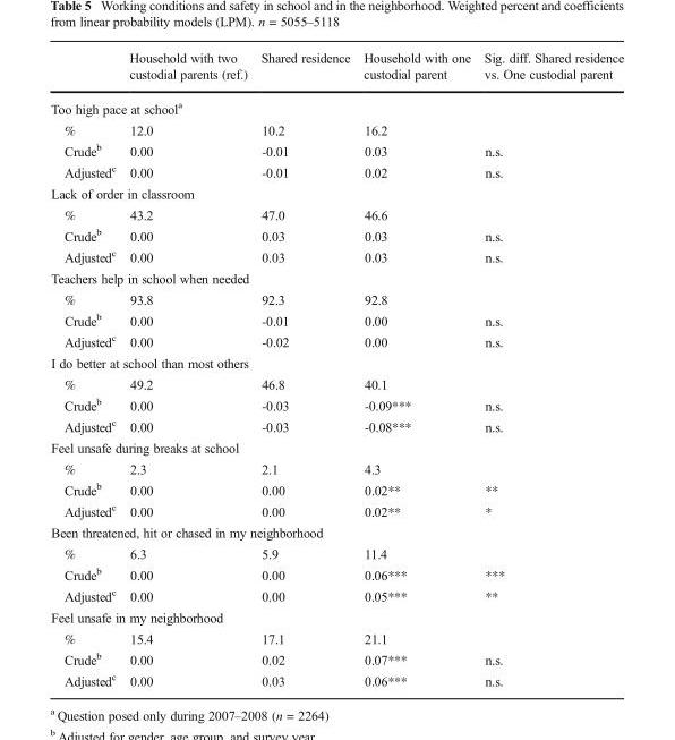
<table><thead><tr><td></td><td>Household with two custodial parents (ref.)</td><td>Shared residence</td><td>Household with one custodial parent</td><td>Sig. diff. Shared residence vs. One custodial parent</td></tr></thead><tbody><tr><td colspan="5">Too high pace at school<sup>a</sup></td></tr><tr><td>%</td><td>12.0</td><td>10.2</td><td>16.2</td><td></td></tr><tr><td>Crude<sup>b</sup></td><td>0.00</td><td>-0.01</td><td>0.03</td><td>n.s.</td></tr><tr><td>Adjusted<sup>c</sup></td><td>0.00</td><td>-0.01</td><td>0.02</td><td>n.s.</td></tr><tr><td colspan="5">Lack of order in classroom</td></tr><tr><td>%</td><td>43.2</td><td>47.0</td><td>46.6</td><td></td></tr><tr><td>Crude<sup>b</sup></td><td>0.00</td><td>0.03</td><td>0.03</td><td>n.s.</td></tr><tr><td>Adjusted<sup>c</sup></td><td>0.00</td><td>0.03</td><td>0.03</td><td>n.s.</td></tr><tr><td colspan="5">Teachers help in school when needed</td></tr><tr><td>%</td><td>93.8</td><td>92.3</td><td>92.8</td><td></td></tr><tr><td>Crude<sup>b</sup></td><td>0.00</td><td>-0.01</td><td>0.00</td><td>n.s.</td></tr><tr><td>Adjusted<sup>c</sup></td><td>0.00</td><td>-0.02</td><td>0.00</td><td>n.s.</td></tr><tr><td colspan="5">I do better at school than most others</td></tr><tr><td>%</td><td>49.2</td><td>46.8</td><td>40.1</td><td></td></tr><tr><td>Crude<sup>b</sup></td><td>0.00</td><td>-0.03</td><td>-0.09***</td><td>n.s.</td></tr><tr><td>Adjusted<sup>c</sup></td><td>0.00</td><td>-0.03</td><td>-0.08***</td><td>n.s.</td></tr><tr><td colspan="5">Feel unsafe during breaks at school</td></tr><tr><td>%</td><td>2.3</td><td>2.1</td><td>4.3</td><td></td></tr><tr><td>Crude<sup>b</sup></td><td>0.00</td><td>0.00</td><td>0.02**</td><td>**</td></tr><tr><td>Adjusted<sup>c</sup></td><td>0.00</td><td>0.00</td><td>0.02**</td><td>*</td></tr><tr><td colspan="5">Been threatened, hit or chased in my neighborhood</td></tr><tr><td>%</td><td>6.3</td><td>5.9</td><td>11.4</td><td></td></tr><tr><td>Crude<sup>b</sup></td><td>0.00</td><td>0.00</td><td>0.06***</td><td>***</td></tr><tr><td>Adjusted<sup>c</sup></td><td>0.00</td><td>0.00</td><td>0.05***</td><td>**</td></tr><tr><td colspan="5">Feel unsafe in my neighborhood</td></tr><tr><td>%</td><td>15.4</td><td>17.1</td><td>21.1</td><td></td></tr><tr><td>Crude<sup>b</sup></td><td>0.00</td><td>0.02</td><td>0.07***</td><td>n.s.</td></tr><tr><td>Adjusted<sup>c</sup></td><td>0.00</td><td>0.03</td><td>0.06***</td><td>n.s.</td></tr></tbody></table>